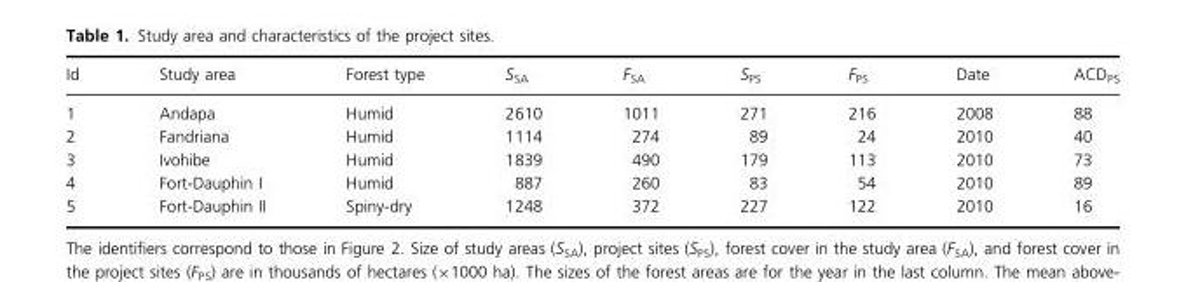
<table><thead><tr><td>Id</td><td>Study area</td><td>Forest type</td><td>S<sub>SA</sub></td><td>F<sub>SA</sub></td><td>S<sub>PS</sub></td><td>F<sub>PS</sub></td><td>Date</td><td>ACD<sub>PS</sub></td></tr></thead><tbody><tr><td>1</td><td>Andapa</td><td>Humid</td><td>2610</td><td>1011</td><td>271</td><td>216</td><td>2008</td><td>88</td></tr><tr><td>2</td><td>Fandriana</td><td>Humid</td><td>1114</td><td>274</td><td>89</td><td>24</td><td>2010</td><td>40</td></tr><tr><td>3</td><td>Ivohibe</td><td>Humid</td><td>1839</td><td>490</td><td>179</td><td>113</td><td>2010</td><td>73</td></tr><tr><td>4</td><td>Fort-Dauphin I</td><td>Humid</td><td>887</td><td>260</td><td>83</td><td>54</td><td>2010</td><td>89</td></tr><tr><td>5</td><td>Fort-Dauphin II</td><td>Spiny-dry</td><td>1248</td><td>372</td><td>227</td><td>122</td><td>2010</td><td>16</td></tr></tbody></table>